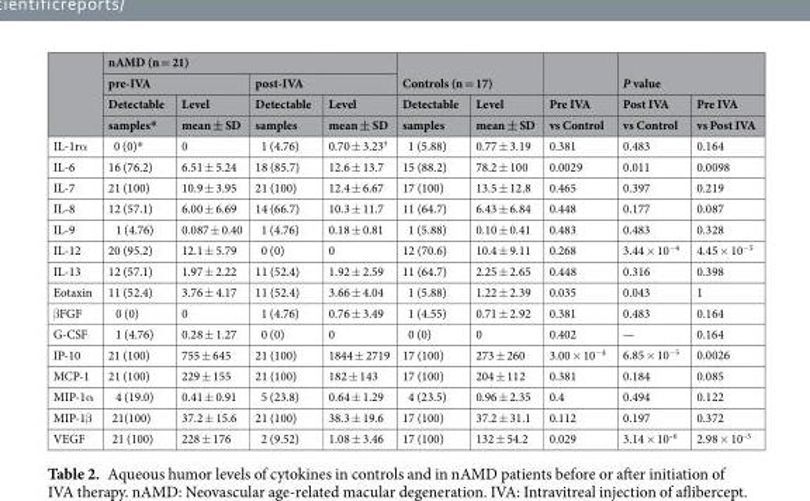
<table><thead><tr><td rowspan="4"></td><td colspan="4">nAMD (n = 21)</td><td rowspan="2" colspan="2">Controls (n = 17)</td><td rowspan="4">Pre IVA vs Control</td><td rowspan="2" colspan="2">P value</td></tr><tr><td colspan="2">pre-IVA</td><td colspan="2">post-IVA</td></tr><tr><td rowspan="2">Detectable samples*</td><td rowspan="2">Level mean ± SD</td><td rowspan="2">Detectable samples</td><td rowspan="2">Level mean ± SD</td><td rowspan="2">Detectable samples</td><td rowspan="2">Level mean ± SD</td><td rowspan="2">Post IVA vs Control</td><td rowspan="2">Pre IVA vs Post IVA</td></tr><tr></tr></thead><tbody><tr><td>IL-1rα</td><td>0 (0)*</td><td>0</td><td>1 (4.76)</td><td>0.70 ± 3.23<sup>†</sup></td><td>1 (5.88)</td><td>0.77 ± 3.19</td><td>0.381</td><td>0.483</td><td>0.164</td></tr><tr><td>IL-6</td><td>16 (76.2)</td><td>6.51 ± 5.24</td><td>18 (85.7)</td><td>12.6 ± 13.7</td><td>15 (88.2)</td><td>78.2 ± 100</td><td>0.0029</td><td>0.011</td><td>0.0098</td></tr><tr><td>IL-7</td><td>21 (100)</td><td>10.9 ± 3.95</td><td>21 (100)</td><td>12.4 ± 6.67</td><td>17 (100)</td><td>13.5 ± 12.8</td><td>0.465</td><td>0.397</td><td>0.219</td></tr><tr><td>IL-8</td><td>12 (57.1)</td><td>6.00 ± 6.69</td><td>14 (66.7)</td><td>10.3 ± 11.7</td><td>11 (64.7)</td><td>6.43 ± 6.84</td><td>0.448</td><td>0.177</td><td>0.087</td></tr><tr><td>IL-9</td><td>1 (4.76)</td><td>0.087 ± 0.40</td><td>1 (4.76)</td><td>0.18 ± 0.81</td><td>1 (5.88)</td><td>0.10 ± 0.41</td><td>0.483</td><td>0.483</td><td>0.328</td></tr><tr><td>IL-12</td><td>20 (95.2)</td><td>12.1 ± 5.79</td><td>0 (0)</td><td>0</td><td>12 (70.6)</td><td>10.4 ± 9.11</td><td>0.268</td><td>3.44 × 10<sup>−4</sup></td><td>4.45 × 10<sup>−5</sup></td></tr><tr><td>IL-13</td><td>12 (57.1)</td><td>1.97 ± 2.22</td><td>11 (52.4)</td><td>1.92 ± 2.59</td><td>11 (64.7)</td><td>2.25 ± 2.65</td><td>0.448</td><td>0.316</td><td>0.398</td></tr><tr><td>Eotaxin</td><td>11 (52.4)</td><td>3.76 ± 4.17</td><td>11 (52.4)</td><td>3.66 ± 4.04</td><td>1 (5.88)</td><td>1.22 ± 2.39</td><td>0.035</td><td>0.043</td><td>1</td></tr><tr><td>βFGF</td><td>0 (0)</td><td>0</td><td>1 (4.76)</td><td>0.76 ± 3.49</td><td>1 (4.55)</td><td>0.71 ± 2.92</td><td>0.381</td><td>0.483</td><td>0.164</td></tr><tr><td>G-CSF</td><td>1 (4.76)</td><td>0.28 ± 1.27</td><td>0 (0)</td><td>0</td><td>0 (0)</td><td>0</td><td>0.402</td><td>—</td><td>0.164</td></tr><tr><td>IP-10</td><td>21 (100)</td><td>755 ± 645</td><td>21 (100)</td><td>1844 ± 2719</td><td>17 (100)</td><td>273 ± 260</td><td>3.00 × 10<sup>−4</sup></td><td>6.85 × 10<sup>−5</sup></td><td>0.0026</td></tr><tr><td>MCP-1</td><td>21 (100)</td><td>229 ± 155</td><td>21 (100)</td><td>182 ± 143</td><td>17 (100)</td><td>204 ± 112</td><td>0.381</td><td>0.184</td><td>0.085</td></tr><tr><td>MIP-1α</td><td>4 (19.0)</td><td>0.41 ± 0.91</td><td>5 (23.8)</td><td>0.64 ± 1.29</td><td>4 (23.5)</td><td>0.96 ± 2.35</td><td>0.4</td><td>0.494</td><td>0.122</td></tr><tr><td>MIP-1β</td><td>21(100)</td><td>37.2 ± 15.6</td><td>21 (100)</td><td>38.3 ± 19.6</td><td>17 (100)</td><td>37.2 ± 31.1</td><td>0.112</td><td>0.197</td><td>0.372</td></tr><tr><td>VEGF</td><td>21 (100)</td><td>228 ± 176</td><td>2 (9.52)</td><td>1.08 ± 3.46</td><td>17 (100)</td><td>132 ± 54.2</td><td>0.029</td><td>3.14 × 10<sup>–6</sup></td><td>2.98 × 10<sup>–5</sup></td></tr></tbody></table>